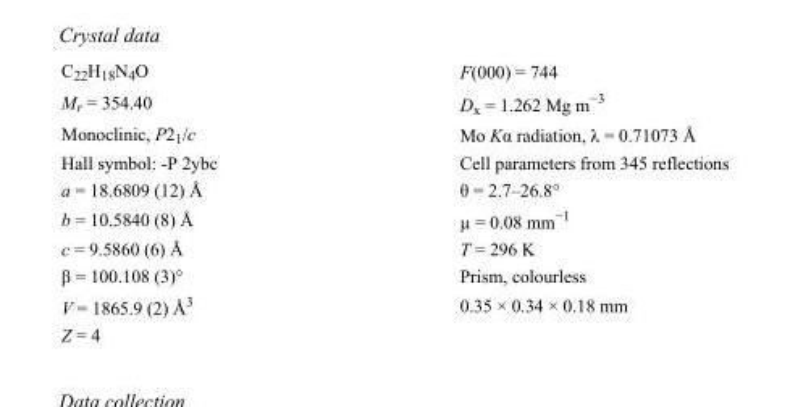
<table><tbody><tr><td>C<sub>22</sub>H<sub>18</sub>N<sub>4</sub>O</td><td>F(000) = 744</td></tr><tr><td>M<sub>r</sub> = 354.40</td><td>D<sub>x</sub> = 1.262 Mg m<sup>−3</sup></td></tr><tr><td>Monoclinic, P2<sub>1</sub>/c</td><td>Mo Kα radiation, λ = 0.71073 Å</td></tr><tr><td>Hall symbol: -P 2ybc</td><td>Cell parameters from 345 reflections</td></tr><tr><td>a = 18.6809 (12) Å</td><td>θ = 2.7–26.8°</td></tr><tr><td>b = 10.5840 (8) Å</td><td>µ = 0.08 mm<sup>−1</sup></td></tr><tr><td>c = 9.5860 (6) Å</td><td>T = 296 K</td></tr><tr><td>β = 100.108 (3)°</td><td>Prism, colourless</td></tr><tr><td>V = 1865.9 (2) Å<sup>3</sup></td><td>0.35 × 0.34 × 0.18 mm</td></tr><tr><td>Z = 4</td><td></td></tr></tbody></table>